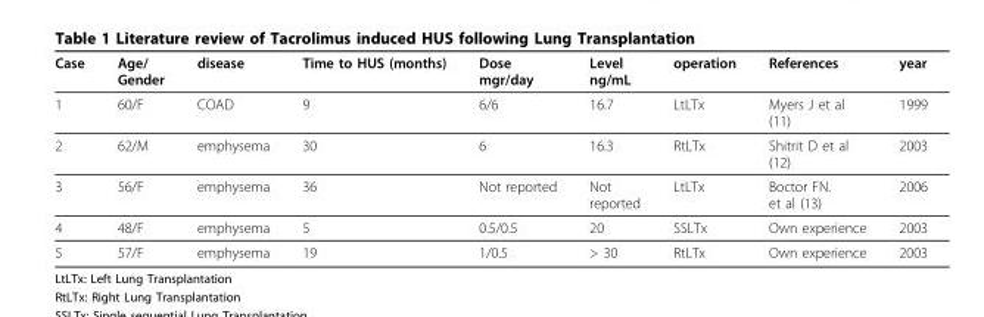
<table><thead><tr><td>Case</td><td>Age/ Gender</td><td>disease</td><td>Time to HUS (months)</td><td>Dose mgr/day</td><td>Level ng/mL</td><td>operation</td><td>References</td><td>year</td></tr></thead><tbody><tr><td>1</td><td>60/F</td><td>COAD</td><td>9</td><td>6/6</td><td>16.7</td><td>LtLTx</td><td>Myers J et al (11)</td><td>1999</td></tr><tr><td>2</td><td>62/M</td><td>emphysema</td><td>30</td><td>6</td><td>16.3</td><td>RtLTx</td><td>Shitrit D et al (12)</td><td>2003</td></tr><tr><td>3</td><td>56/F</td><td>emphysema</td><td>36</td><td>Not reported</td><td>Not reported</td><td>LtLTx</td><td>Boctor FN. et al (13)</td><td>2006</td></tr><tr><td>4</td><td>48/F</td><td>emphysema</td><td>5</td><td>0.5/0.5</td><td>20</td><td>SSLTx</td><td>Own experience</td><td>2003</td></tr><tr><td>5</td><td>57/F</td><td>emphysema</td><td>19</td><td>1/0.5</td><td>&gt; 30</td><td>RtLTx</td><td>Own experience</td><td>2003</td></tr></tbody></table>